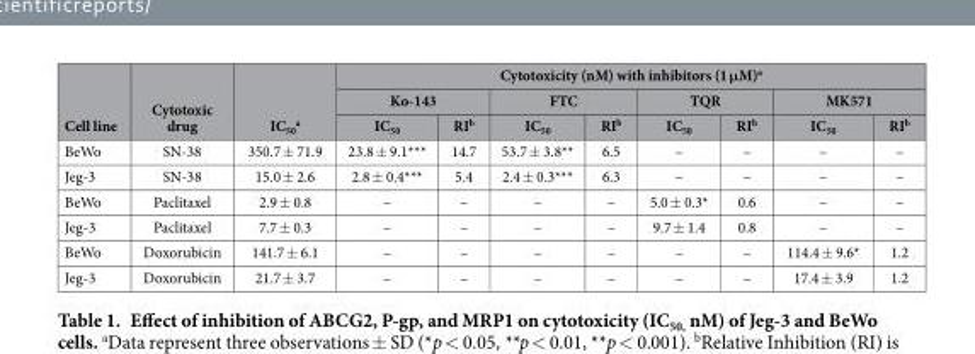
<table><thead><tr><td rowspan="3">Cell line</td><td rowspan="3">Cytotoxic drug</td><td rowspan="3">IC<sub>50</sub> <sup>a</sup></td><td colspan="8">Cytotoxicity (nM) with inhibitors (1 μM)<sup>a</sup></td></tr><tr><td colspan="2">Ko-143</td><td colspan="2">FTC</td><td colspan="2">TQR</td><td colspan="2">MK571</td></tr><tr><td>IC<sub>50</sub></td><td>RI<sup>b</sup></td><td>IC<sub>50</sub></td><td>RI<sup>b</sup></td><td>IC<sub>50</sub></td><td>RI<sup>b</sup></td><td>IC<sub>50</sub></td><td>RI<sup>b</sup></td></tr></thead><tbody><tr><td>BeWo</td><td>SN-38</td><td>350.7 ± 71.9</td><td>23.8 ± 9.1***</td><td>14.7</td><td>53.7 ± 3.8**</td><td>6.5</td><td>–</td><td>–</td><td>–</td><td>–</td></tr><tr><td>Jeg-3</td><td>SN-38</td><td>15.0 ± 2.6</td><td>2.8 ± 0.4***</td><td>5.4</td><td>2.4 ± 0.3***</td><td>6.3</td><td>–</td><td>–</td><td>–</td><td>–</td></tr><tr><td>BeWo</td><td>Paclitaxel</td><td>2.9 ± 0.8</td><td>–</td><td>–</td><td>–</td><td>–</td><td>5.0 ± 0.3*</td><td>0.6</td><td>–</td><td>–</td></tr><tr><td>Jeg-3</td><td>Paclitaxel</td><td>7.7 ± 0.3</td><td>–</td><td>–</td><td>–</td><td>–</td><td>9.7 ± 1.4</td><td>0.8</td><td>–</td><td>–</td></tr><tr><td>BeWo</td><td>Doxorubicin</td><td>141.7 ± 6.1</td><td>–</td><td>–</td><td>–</td><td>–</td><td>–</td><td>–</td><td>114.4 ± 9.6*</td><td>1.2</td></tr><tr><td>Jeg-3</td><td>Doxorubicin</td><td>21.7 ± 3.7</td><td>–</td><td>–</td><td>–</td><td>–</td><td>–</td><td>–</td><td>17.4 ± 3.9</td><td>1.2</td></tr></tbody></table>